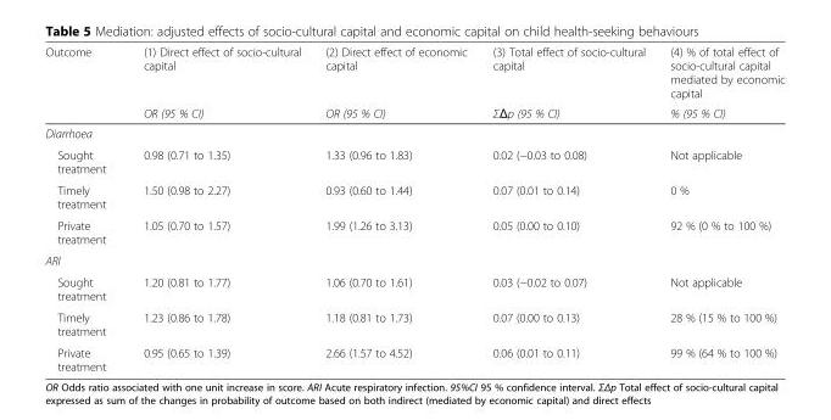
<table><thead><tr><td rowspan="2">Outcome</td><td rowspan="2">(1) Direct effect of socio-cultural capital OR (95 % CI)</td><td rowspan="2">(2) Direct effect of economic capital OR (95 % CI)</td><td rowspan="2">(3) Total effect of socio-cultural capital ΣΔp (95 % CI)</td><td rowspan="2">(4) % of total effect of socio-cultural capital mediated by economic capital % (95 % CI)</td></tr><tr></tr></thead><tbody><tr><td colspan="5">Diarrhoea</td></tr><tr><td>Sought treatment</td><td>0.98 (0.71 to 1.35)</td><td>1.33 (0.96 to 1.83)</td><td>0.02 (−0.03 to 0.08)</td><td>Not applicable</td></tr><tr><td>Timely treatment</td><td>1.50 (0.98 to 2.27)</td><td>0.93 (0.60 to 1.44)</td><td>0.07 (0.01 to 0.14)</td><td>0 %</td></tr><tr><td>Private treatment</td><td>1.05 (0.70 to 1.57)</td><td>1.99 (1.26 to 3.13)</td><td>0.05 (0.00 to 0.10)</td><td>92 % (0 % to 100 %)</td></tr><tr><td colspan="5">ARI</td></tr><tr><td>Sought treatment</td><td>1.20 (0.81 to 1.77)</td><td>1.06 (0.70 to 1.61)</td><td>0.03 (−0.02 to 0.07)</td><td>Not applicable</td></tr><tr><td>Timely treatment</td><td>1.23 (0.86 to 1.78)</td><td>1.18 (0.81 to 1.73)</td><td>0.07 (0.00 to 0.13)</td><td>28 % (15 % to 100 %)</td></tr><tr><td>Private treatment</td><td>0.95 (0.65 to 1.39)</td><td>2.66 (1.57 to 4.52)</td><td>0.06 (0.01 to 0.11)</td><td>99 % (64 % to 100 %)</td></tr></tbody></table>